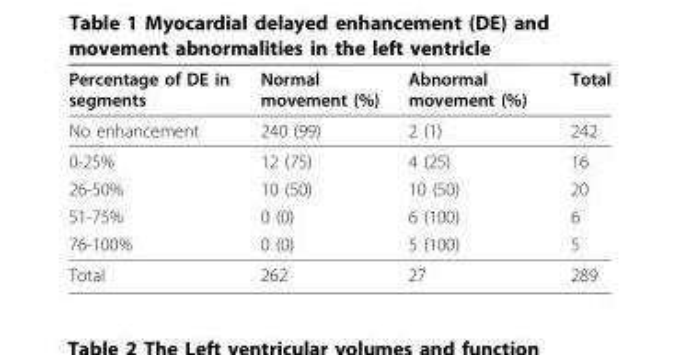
<table><thead><tr><td>Percentage of DE in segments</td><td>Normal movement (%)</td><td>Abnormal movement (%)</td><td>Total</td></tr></thead><tbody><tr><td>No enhancement</td><td>240 (99)</td><td>2 (1)</td><td>242</td></tr><tr><td>0-25%</td><td>12 (75)</td><td>4 (25)</td><td>16</td></tr><tr><td>26-50%</td><td>10 (50)</td><td>10 (50)</td><td>20</td></tr><tr><td>51-75%</td><td>0 (0)</td><td>6 (100)</td><td>6</td></tr><tr><td>76-100%</td><td>0 (0)</td><td>5 (100)</td><td>5</td></tr><tr><td>Total</td><td>262</td><td>27</td><td>289</td></tr></tbody></table>